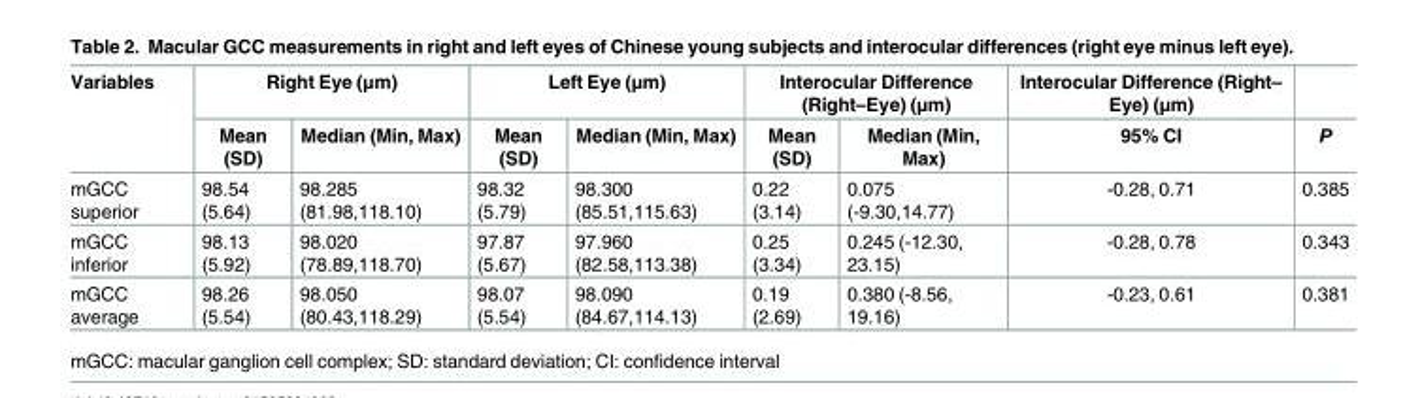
<table><thead><tr><td rowspan="2">Variables</td><td colspan="2">Right Eye (μm)</td><td colspan="2">Left Eye (μm)</td><td colspan="2">Interocular Difference (Right–Eye) (μm)</td><td rowspan="2">Interocular Difference (Right– Eye) (μm) 95% CI</td><td rowspan="2">P</td></tr><tr><td>Mean (SD)</td><td>Median (Min, Max)</td><td>Mean (SD)</td><td>Median (Min, Max)</td><td>Mean (SD)</td><td>Median (Min, Max)</td></tr></thead><tbody><tr><td>mGCC superior</td><td>98.54 (5.64)</td><td>98.285 (81.98,118.10)</td><td>98.32 (5.79)</td><td>98.300 (85.51,115.63)</td><td>0.22 (3.14)</td><td>0.075 (-9.30,14.77)</td><td>-0.28, 0.71</td><td>0.385</td></tr><tr><td>mGCC inferior</td><td>98.13 (5.92)</td><td>98.020 (78.89,118.70)</td><td>97.87 (5.67)</td><td>97.960 (82.58,113.38)</td><td>0.25 (3.34)</td><td>0.245 (-12.30, 23.15)</td><td>-0.28, 0.78</td><td>0.343</td></tr><tr><td>mGCC average</td><td>98.26 (5.54)</td><td>98.050 (80.43,118.29)</td><td>98.07 (5.54)</td><td>98.090 (84.67,114.13)</td><td>0.19 (2.69)</td><td>0.380 (-8.56, 19.16)</td><td>-0.23, 0.61</td><td>0.381</td></tr></tbody></table>